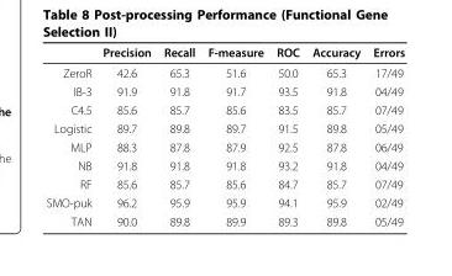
<table><thead><tr><td></td><td>Precision</td><td>Recall</td><td>F-measure</td><td>ROC</td><td>Accuracy</td><td>Errors</td></tr></thead><tbody><tr><td>ZeroR</td><td>42.6</td><td>65.3</td><td>51.6</td><td>50.0</td><td>65.3</td><td>17/49</td></tr><tr><td>IB-3</td><td>91.9</td><td>91.8</td><td>91.7</td><td>93.5</td><td>91.8</td><td>04/49</td></tr><tr><td>C4.5</td><td>85.6</td><td>85.7</td><td>85.6</td><td>83.5</td><td>85.7</td><td>07/49</td></tr><tr><td>Logistic</td><td>89.7</td><td>89.8</td><td>89.7</td><td>91.5</td><td>89.8</td><td>05/49</td></tr><tr><td>MLP</td><td>88.3</td><td>87.8</td><td>87.9</td><td>92.5</td><td>87.8</td><td>06/49</td></tr><tr><td>NB</td><td>91.8</td><td>91.8</td><td>91.8</td><td>93.2</td><td>91.8</td><td>04/49</td></tr><tr><td>RF</td><td>85.6</td><td>85.7</td><td>85.6</td><td>84.7</td><td>85.7</td><td>07/49</td></tr><tr><td>SMO-puk</td><td>96.2</td><td>95.9</td><td>95.9</td><td>94.1</td><td>95.9</td><td>02/49</td></tr><tr><td>TAN</td><td>90.0</td><td>89.8</td><td>89.9</td><td>89.3</td><td>89.8</td><td>05/49</td></tr></tbody></table>